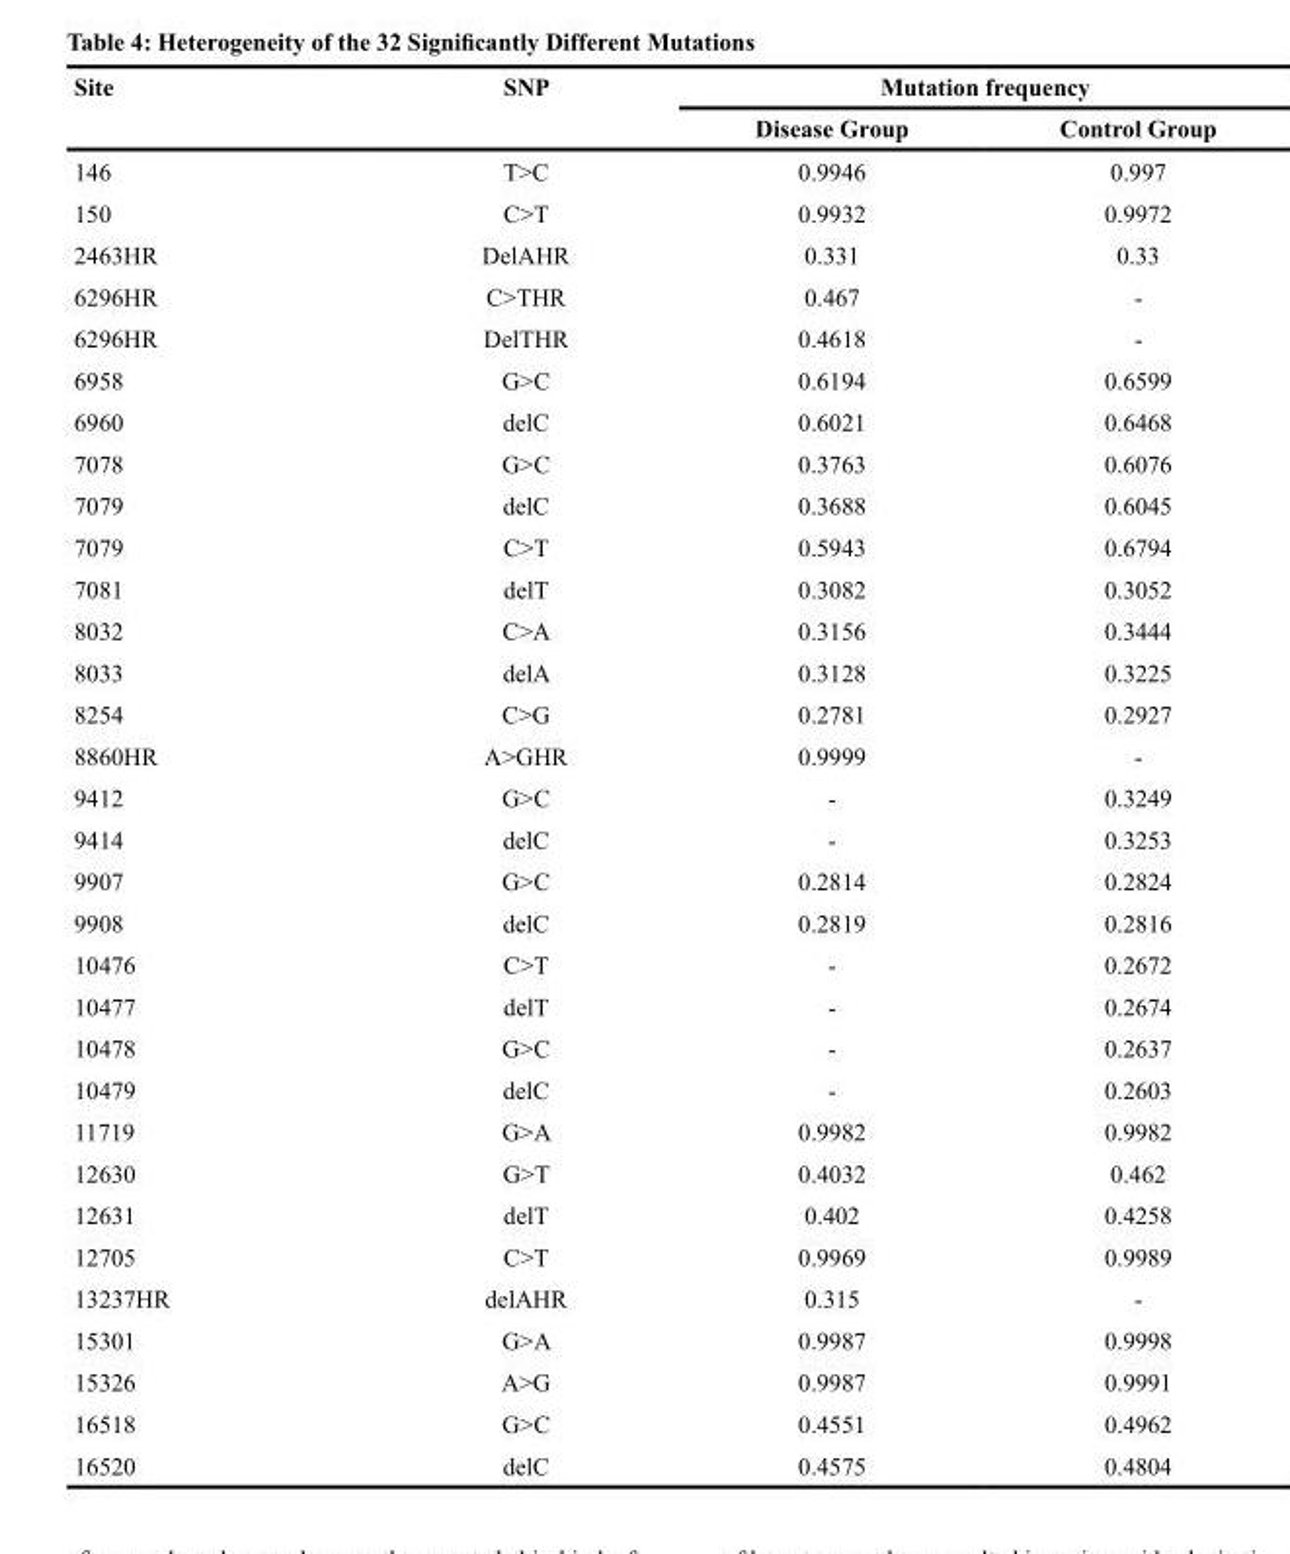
<table><thead><tr><td rowspan="2">Site</td><td rowspan="2">SNP</td><td colspan="2">Mutation frequency</td></tr><tr><td>Disease Group</td><td>Control Group</td></tr></thead><tbody><tr><td>146</td><td>T&gt;C</td><td>0.9946</td><td>0.997</td></tr><tr><td>150</td><td>C&gt;T</td><td>0.9932</td><td>0.9972</td></tr><tr><td>2463HR</td><td>DelAHR</td><td>0.331</td><td>0.33</td></tr><tr><td>6296HR</td><td>C&gt;THR</td><td>0.467</td><td>-</td></tr><tr><td>6296HR</td><td>DelTHR</td><td>0.4618</td><td>-</td></tr><tr><td>6958</td><td>G&gt;C</td><td>0.6194</td><td>0.6599</td></tr><tr><td>6960</td><td>delC</td><td>0.6021</td><td>0.6468</td></tr><tr><td>7078</td><td>G&gt;C</td><td>0.3763</td><td>0.6076</td></tr><tr><td>7079</td><td>delC</td><td>0.3688</td><td>0.6045</td></tr><tr><td>7079</td><td>C&gt;T</td><td>0.5943</td><td>0.6794</td></tr><tr><td>7081</td><td>delT</td><td>0.3082</td><td>0.3052</td></tr><tr><td>8032</td><td>C&gt;A</td><td>0.3156</td><td>0.3444</td></tr><tr><td>8033</td><td>delA</td><td>0.3128</td><td>0.3225</td></tr><tr><td>8254</td><td>C&gt;G</td><td>0.2781</td><td>0.2927</td></tr><tr><td>8860HR</td><td>A&gt;GHR</td><td>0.9999</td><td>-</td></tr><tr><td>9412</td><td>G&gt;C</td><td>-</td><td>0.3249</td></tr><tr><td>9414</td><td>delC</td><td>-</td><td>0.3253</td></tr><tr><td>9907</td><td>G&gt;C</td><td>0.2814</td><td>0.2824</td></tr><tr><td>9908</td><td>delC</td><td>0.2819</td><td>0.2816</td></tr><tr><td>10476</td><td>C&gt;T</td><td>-</td><td>0.2672</td></tr><tr><td>10477</td><td>delT</td><td>-</td><td>0.2674</td></tr><tr><td>10478</td><td>G&gt;C</td><td>-</td><td>0.2637</td></tr><tr><td>10479</td><td>delC</td><td>-</td><td>0.2603</td></tr><tr><td>11719</td><td>G&gt;A</td><td>0.9982</td><td>0.9982</td></tr><tr><td>12630</td><td>G&gt;T</td><td>0.4032</td><td>0.462</td></tr><tr><td>12631</td><td>delT</td><td>0.402</td><td>0.4258</td></tr><tr><td>12705</td><td>C&gt;T</td><td>0.9969</td><td>0.9989</td></tr><tr><td>13237HR</td><td>delAHR</td><td>0.315</td><td>-</td></tr><tr><td>15301</td><td>G&gt;A</td><td>0.9987</td><td>0.9998</td></tr><tr><td>15326</td><td>A&gt;G</td><td>0.9987</td><td>0.9991</td></tr><tr><td>16518</td><td>G&gt;C</td><td>0.4551</td><td>0.4962</td></tr><tr><td>16520</td><td>delC</td><td>0.4575</td><td>0.4804</td></tr></tbody></table>